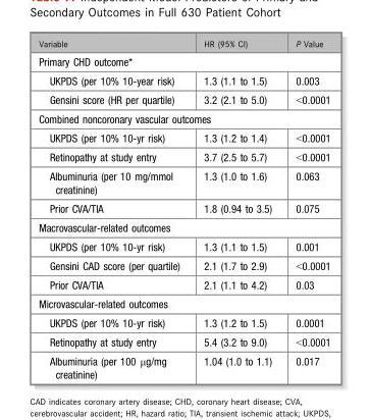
<table><thead><tr><td>Variable</td><td>HR (95% CI)</td><td>P Value</td></tr></thead><tbody><tr><td colspan="3">Primary CHD outcome*</td></tr><tr><td>UKPDS (per 10% 10-year risk)</td><td>1.3 (1.1 to 1.5)</td><td>0.003</td></tr><tr><td>Gensini score (HR per quartile)</td><td>3.2 (2.1 to 5.0)</td><td>&lt;0.0001</td></tr><tr><td colspan="3">Combined noncoronary vascular outcomes</td></tr><tr><td>UKPDS (per 10% 10-yr risk)</td><td>1.3 (1.2 to 1.4)</td><td>&lt;0.0001</td></tr><tr><td>Retinopathy at study entry</td><td>3.7 (2.5 to 5.7)</td><td>&lt;0.0001</td></tr><tr><td>Albuminuria (per 10 mg/mmol creatinine)</td><td>1.3 (1.0 to 1.6)</td><td>0.063</td></tr><tr><td>Prior CVA/TIA</td><td>1.8 (0.94 to 3.5)</td><td>0.075</td></tr><tr><td colspan="3">Macrovascular-related outcomes</td></tr><tr><td>UKPDS (per 10% 10-yr risk)</td><td>1.3 (1.1 to 1.5)</td><td>0.001</td></tr><tr><td>Gensini CAD score (per quartile)</td><td>2.1 (1.7 to 2.9)</td><td>&lt;0.0001</td></tr><tr><td>Prior CVA/TIA</td><td>2.1 (1.1 to 4.2)</td><td>0.03</td></tr><tr><td colspan="3">Microvascular-related outcomes</td></tr><tr><td>UKPDS (per 10% 10-yr risk)</td><td>1.3 (1.2 to 1.5)</td><td>0.0001</td></tr><tr><td>Retinopathy at study entry</td><td>5.4 (3.2 to 9.0)</td><td>&lt;0.0001</td></tr><tr><td>Albuminuria (per 100 μg/mg creatinine)</td><td>1.04 (1.0 to 1.1)</td><td>0.017</td></tr></tbody></table>